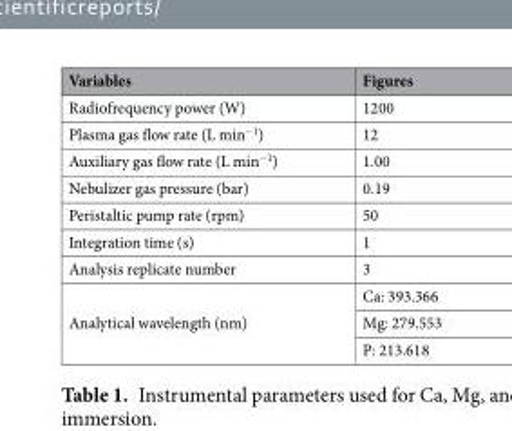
<table><thead><tr><td>Variables</td><td>Figures</td></tr></thead><tbody><tr><td>Radiofrequency power (W)</td><td>1200</td></tr><tr><td>Plasma gas flow rate (L min<sup>−1</sup>)</td><td>12</td></tr><tr><td>Auxiliary gas flow rate (L min<sup>−1</sup>)</td><td>1.00</td></tr><tr><td>Nebulizer gas pressure (bar)</td><td>0.19</td></tr><tr><td>Peristaltic pump rate (rpm)</td><td>50</td></tr><tr><td>Integration time (s)</td><td>1</td></tr><tr><td>Analysis replicate number</td><td>3</td></tr><tr><td rowspan="3">Analytical wavelength (nm)</td><td>Ca: 393.366</td></tr><tr><td>Mg: 279.553</td></tr><tr><td>P: 213.618</td></tr></tbody></table>